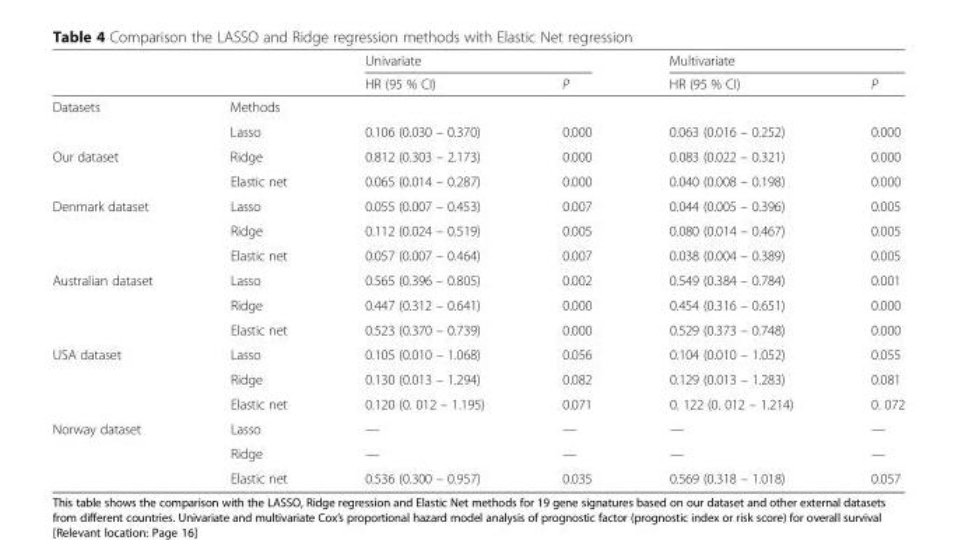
<table><thead><tr><td rowspan="2"></td><td rowspan="2"></td><td colspan="2">Univariate</td><td colspan="2">Multivariate</td></tr><tr><td>HR (95 % CI)</td><td>P</td><td>HR (95 % CI)</td><td>P</td></tr></thead><tbody><tr><td rowspan="2">Datasets</td><td>Methods</td><td></td><td></td><td></td><td></td></tr><tr><td>Lasso</td><td>0.106 (0.030 – 0.370)</td><td>0.000</td><td>0.063 (0.016 – 0.252)</td><td>0.000</td></tr><tr><td rowspan="2">Our dataset</td><td>Ridge</td><td>0.812 (0.303 – 2.173)</td><td>0.000</td><td>0.083 (0.022 – 0.321)</td><td>0.000</td></tr><tr><td>Elastic net</td><td>0.065 (0.014 – 0.287)</td><td>0.000</td><td>0.040 (0.008 – 0.198)</td><td>0.000</td></tr><tr><td rowspan="3">Denmark dataset</td><td>Lasso</td><td>0.055 (0.007 – 0.453)</td><td>0.007</td><td>0.044 (0.005 – 0.396)</td><td>0.005</td></tr><tr><td>Ridge</td><td>0.112 (0.024 – 0.519)</td><td>0.005</td><td>0.080 (0.014 – 0.467)</td><td>0.005</td></tr><tr><td>Elastic net</td><td>0.057 (0.007 – 0.464)</td><td>0.007</td><td>0.038 (0.004 – 0.389)</td><td>0.005</td></tr><tr><td rowspan="3">Australian dataset</td><td>Lasso</td><td>0.565 (0.396 – 0.805)</td><td>0.002</td><td>0.549 (0.384 – 0.784)</td><td>0.001</td></tr><tr><td>Ridge</td><td>0.447 (0.312 – 0.641)</td><td>0.000</td><td>0.454 (0.316 – 0.651)</td><td>0.000</td></tr><tr><td>Elastic net</td><td>0.523 (0.370 – 0.739)</td><td>0.000</td><td>0.529 (0.373 – 0.748)</td><td>0.000</td></tr><tr><td rowspan="3">USA dataset</td><td>Lasso</td><td>0.105 (0.010 – 1.068)</td><td>0.056</td><td>0.104 (0.010 – 1.052)</td><td>0.055</td></tr><tr><td>Ridge</td><td>0.130 (0.013 – 1.294)</td><td>0.082</td><td>0.129 (0.013 – 1.283)</td><td>0.081</td></tr><tr><td>Elastic net</td><td>0.120 (0. 012 – 1.195)</td><td>0.071</td><td>0. 122 (0. 012 – 1.214)</td><td>0. 072</td></tr><tr><td rowspan="3">Norway dataset</td><td>Lasso</td><td>—</td><td>—</td><td>—</td><td>—</td></tr><tr><td>Ridge</td><td>—</td><td>—</td><td>—</td><td>—</td></tr><tr><td>Elastic net</td><td>0.536 (0.300 – 0.957)</td><td>0.035</td><td>0.569 (0.318 – 1.018)</td><td>0.057</td></tr></tbody></table>